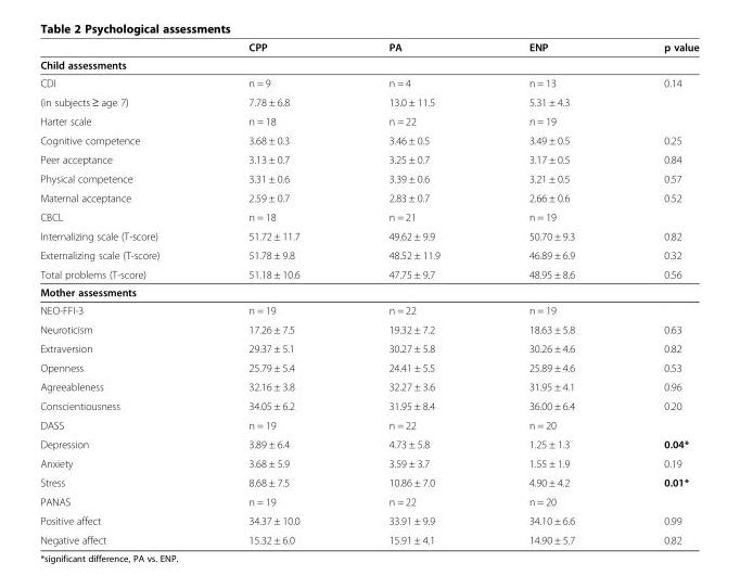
<table><thead><tr><td></td><td>CPP</td><td>PA</td><td>ENP</td><td>p value</td></tr></thead><tbody><tr><td colspan="5">Child assessments</td></tr><tr><td>CDI</td><td>n = 9</td><td>n = 4</td><td>n = 13</td><td>0.14</td></tr><tr><td>(in subjects ≥ age 7)</td><td>7.78 ± 6.8</td><td>13.0 ± 11.5</td><td>5.31 ± 4.3</td><td></td></tr><tr><td>Harter scale</td><td>n = 18</td><td>n = 22</td><td>n = 19</td><td></td></tr><tr><td>Cognitive competence</td><td>3.68 ± 0.3</td><td>3.46 ± 0.5</td><td>3.49 ± 0.5</td><td>0.25</td></tr><tr><td>Peer acceptance</td><td>3.13 ± 0.7</td><td>3.25 ± 0.7</td><td>3.17 ± 0.5</td><td>0.84</td></tr><tr><td>Physical competence</td><td>3.31 ± 0.6</td><td>3.39 ± 0.6</td><td>3.21 ± 0.5</td><td>0.57</td></tr><tr><td>Maternal acceptance</td><td>2.59 ± 0.7</td><td>2.83 ± 0.7</td><td>2.66 ± 0.6</td><td>0.52</td></tr><tr><td>CBCL</td><td>n = 18</td><td>n = 21</td><td>n = 19</td><td></td></tr><tr><td>Internalizing scale (T-score)</td><td>51.72 ± 11.7</td><td>49.62 ± 9.9</td><td>50.70 ± 9.3</td><td>0.82</td></tr><tr><td>Externalizing scale (T-score)</td><td>51.78 ± 9.8</td><td>48.52 ± 11.9</td><td>46.89 ± 6.9</td><td>0.32</td></tr><tr><td>Total problems (T-score)</td><td>51.18 ± 10.6</td><td>47.75 ± 9.7</td><td>48.95 ± 8.6</td><td>0.56</td></tr><tr><td colspan="5">Mother assessments</td></tr><tr><td>NEO-FFI-3</td><td>n = 19</td><td>n = 22</td><td>n = 19</td><td></td></tr><tr><td>Neuroticism</td><td>17.26 ± 7.5</td><td>19.32 ± 7.2</td><td>18.63 ± 5.8</td><td>0.63</td></tr><tr><td>Extraversion</td><td>29.37 ± 5.1</td><td>30.27 ± 5.8</td><td>30.26 ± 4.6</td><td>0.82</td></tr><tr><td>Openness</td><td>25.79 ± 5.4</td><td>24.41 ± 5.5</td><td>25.89 ± 4.6</td><td>0.53</td></tr><tr><td>Agreeableness</td><td>32.16 ± 3.8</td><td>32.27 ± 3.6</td><td>31.95 ± 4.1</td><td>0.96</td></tr><tr><td>Conscientiousness</td><td>34.05 ± 6.2</td><td>31.95 ± 8.4</td><td>36.00 ± 6.4</td><td>0.20</td></tr><tr><td>DASS</td><td>n = 19</td><td>n = 22</td><td>n = 20</td><td></td></tr><tr><td>Depression</td><td>3.89 ± 6.4</td><td>4.73 ± 5.8</td><td>1.25 ± 1.3</td><td>0.04*</td></tr><tr><td>Anxiety</td><td>3.68 ± 5.9</td><td>3.59 ± 3.7</td><td>1.55 ± 1.9</td><td>0.19</td></tr><tr><td>Stress</td><td>8.68 ± 7.5</td><td>10.86 ± 7.0</td><td>4.90 ± 4.2</td><td>0.01*</td></tr><tr><td>PANAS</td><td>n = 19</td><td>n = 22</td><td>n = 20</td><td></td></tr><tr><td>Positive affect</td><td>34.37 ± 10.0</td><td>33.91 ± 9.9</td><td>34.10 ± 6.6</td><td>0.99</td></tr><tr><td>Negative affect</td><td>15.32 ± 6.0</td><td>15.91 ± 4.1</td><td>14.90 ± 5.7</td><td>0.82</td></tr></tbody></table>